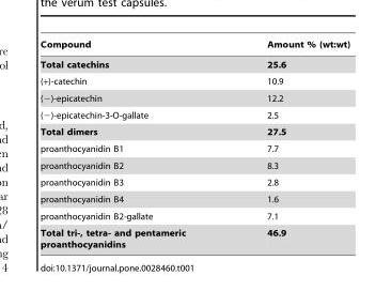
<table><thead><tr><td>Compound</td><td>Amount % (wt:wt)</td></tr></thead><tbody><tr><td>Total catechins</td><td>25.6</td></tr><tr><td>(+)-catechin</td><td>10.9</td></tr><tr><td>(−)-epicatechin</td><td>12.2</td></tr><tr><td>(−)-epicatechin-3-O-gallate</td><td>2.5</td></tr><tr><td>Total dimers</td><td>27.5</td></tr><tr><td>proanthocyanidin B1</td><td>7.7</td></tr><tr><td>proanthocyanidin B2</td><td>8.3</td></tr><tr><td>proanthocyanidin B3</td><td>2.8</td></tr><tr><td>proanthocyanidin B4</td><td>1.6</td></tr><tr><td>proanthocyanidin B2-gallate</td><td>7.1</td></tr><tr><td>Total tri-, tetra- and pentameric proanthocyanidins</td><td>46.9</td></tr></tbody></table>